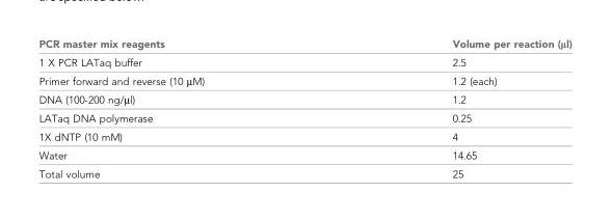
<table><thead><tr><td>PCR master mix reagents</td><td>Volume per reaction (μl)</td></tr></thead><tbody><tr><td>1 X PCR LATaq buffer</td><td>2.5</td></tr><tr><td>Primer forward and reverse (10 μM)</td><td>1.2 (each)</td></tr><tr><td>DNA (100-200 ng/μl)</td><td>1.2</td></tr><tr><td>LATaq DNA polymerase</td><td>0.25</td></tr><tr><td>1X dNTP (10 mM)</td><td>4</td></tr><tr><td>Water</td><td>14.65</td></tr><tr><td>Total volume</td><td>25</td></tr></tbody></table>